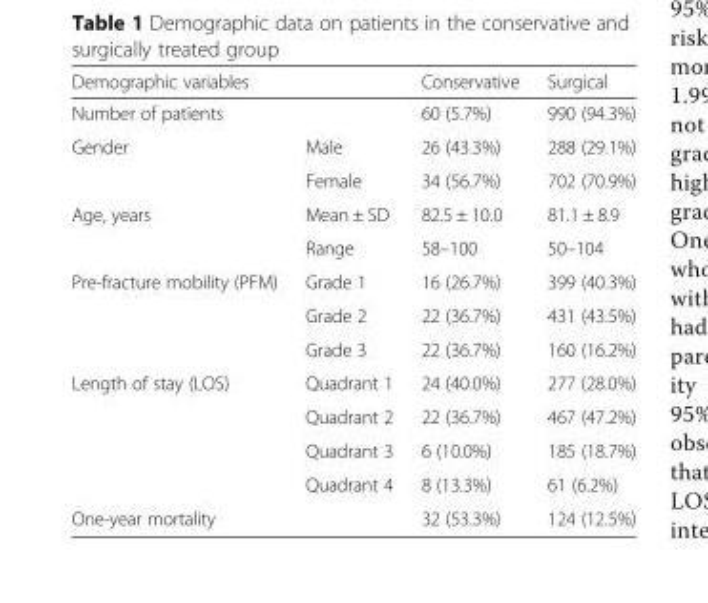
<table><thead><tr><td colspan="2">Demographic variables</td><td rowspan="2">Conservative 60 (5.7%)</td><td rowspan="2">Surgical 990 (94.3%)</td></tr><tr><td>Number of patients</td><td></td></tr></thead><tbody><tr><td rowspan="2">Gender</td><td>Male</td><td>26 (43.3%)</td><td>288 (29.1%)</td></tr><tr><td>Female</td><td>34 (56.7%)</td><td>702 (70.9%)</td></tr><tr><td rowspan="2">Age, years</td><td>Mean ± SD</td><td>82.5 ± 10.0</td><td>81.1 ± 8.9</td></tr><tr><td>Range</td><td>58–100</td><td>50–104</td></tr><tr><td rowspan="3">Pre-fracture mobility (PFM)</td><td>Grade 1</td><td>16 (26.7%)</td><td>399 (40.3%)</td></tr><tr><td>Grade 2</td><td>22 (36.7%)</td><td>431 (43.5%)</td></tr><tr><td>Grade 3</td><td>22 (36.7%)</td><td>160 (16.2%)</td></tr><tr><td rowspan="4">Length of stay (LOS)</td><td>Quadrant 1</td><td>24 (40.0%)</td><td>277 (28.0%)</td></tr><tr><td>Quadrant 2</td><td>22 (36.7%)</td><td>467 (47.2%)</td></tr><tr><td>Quadrant 3</td><td>6 (10.0%)</td><td>185 (18.7%)</td></tr><tr><td>Quadrant 4</td><td>8 (13.3%)</td><td>61 (6.2%)</td></tr><tr><td>One-year mortality</td><td></td><td>32 (53.3%)</td><td>124 (12.5%)</td></tr></tbody></table>